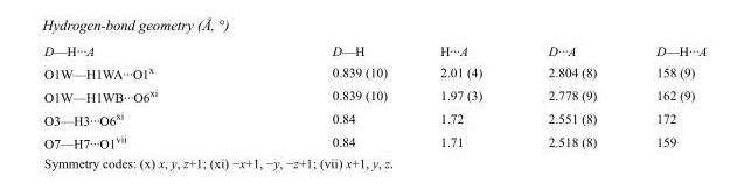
<table><tbody><tr><td>D—H···A</td><td>D—H</td><td>H···A</td><td>D···A</td><td>D—H···A</td></tr><tr><td>O1W—H1WA···O1<sup>x</sup></td><td>0.839 (10)</td><td>2.01 (4)</td><td>2.804 (8)</td><td>158 (9)</td></tr><tr><td>O1W—H1WB···O6<sup>xi</sup></td><td>0.839 (10)</td><td>1.97 (3)</td><td>2.778 (9)</td><td>162 (9)</td></tr><tr><td>O3—H3···O6<sup>xi</sup></td><td>0.84</td><td>1.72</td><td>2.551 (8)</td><td>172</td></tr><tr><td>O7—H7···O1<sup>vii</sup></td><td>0.84</td><td>1.71</td><td>2.518 (8)</td><td>159</td></tr></tbody></table>